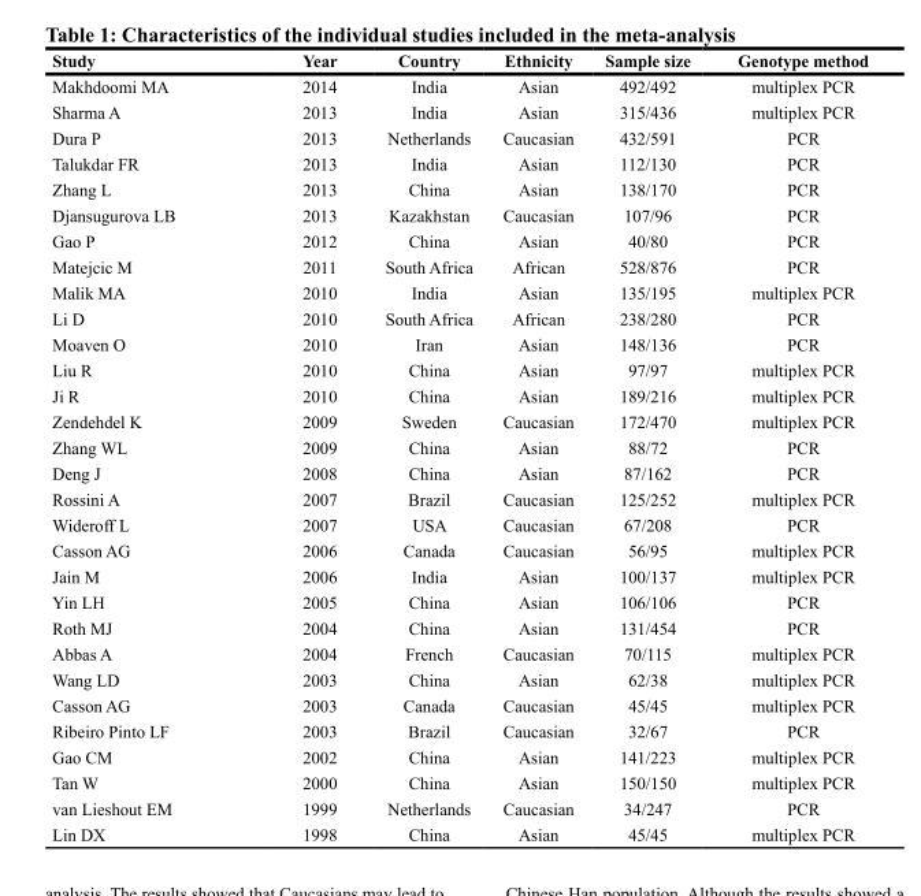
<table><thead><tr><td>Study</td><td>Year</td><td>Country</td><td>Ethnicity</td><td>Sample size</td><td>Genotype method</td></tr></thead><tbody><tr><td>Makhdoomi MA</td><td>2014</td><td>India</td><td>Asian</td><td>492/492</td><td>multiplex PCR</td></tr><tr><td>Sharma A</td><td>2013</td><td>India</td><td>Asian</td><td>315/436</td><td>multiplex PCR</td></tr><tr><td>Dura P</td><td>2013</td><td>Netherlands</td><td>Caucasian</td><td>432/591</td><td>PCR</td></tr><tr><td>Talukdar FR</td><td>2013</td><td>India</td><td>Asian</td><td>112/130</td><td>PCR</td></tr><tr><td>Zhang L</td><td>2013</td><td>China</td><td>Asian</td><td>138/170</td><td>PCR</td></tr><tr><td>Djansugurova LB</td><td>2013</td><td>Kazakhstan</td><td>Caucasian</td><td>107/96</td><td>PCR</td></tr><tr><td>Gao P</td><td>2012</td><td>China</td><td>Asian</td><td>40/80</td><td>PCR</td></tr><tr><td>Matejcic M</td><td>2011</td><td>South Africa</td><td>African</td><td>528/876</td><td>PCR</td></tr><tr><td>Malik MA</td><td>2010</td><td>India</td><td>Asian</td><td>135/195</td><td>multiplex PCR</td></tr><tr><td>Li D</td><td>2010</td><td>South Africa</td><td>African</td><td>238/280</td><td>PCR</td></tr><tr><td>Moaven O</td><td>2010</td><td>Iran</td><td>Asian</td><td>148/136</td><td>PCR</td></tr><tr><td>Liu R</td><td>2010</td><td>China</td><td>Asian</td><td>97/97</td><td>multiplex PCR</td></tr><tr><td>Ji R</td><td>2010</td><td>China</td><td>Asian</td><td>189/216</td><td>multiplex PCR</td></tr><tr><td>Zendehdel K</td><td>2009</td><td>Sweden</td><td>Caucasian</td><td>172/470</td><td>multiplex PCR</td></tr><tr><td>Zhang WL</td><td>2009</td><td>China</td><td>Asian</td><td>88/72</td><td>PCR</td></tr><tr><td>Deng J</td><td>2008</td><td>China</td><td>Asian</td><td>87/162</td><td>PCR</td></tr><tr><td>Rossini A</td><td>2007</td><td>Brazil</td><td>Caucasian</td><td>125/252</td><td>multiplex PCR</td></tr><tr><td>Wideroff L</td><td>2007</td><td>USA</td><td>Caucasian</td><td>67/208</td><td>PCR</td></tr><tr><td>Casson AG</td><td>2006</td><td>Canada</td><td>Caucasian</td><td>56/95</td><td>multiplex PCR</td></tr><tr><td>Jain M</td><td>2006</td><td>India</td><td>Asian</td><td>100/137</td><td>multiplex PCR</td></tr><tr><td>Yin LH</td><td>2005</td><td>China</td><td>Asian</td><td>106/106</td><td>PCR</td></tr><tr><td>Roth MJ</td><td>2004</td><td>China</td><td>Asian</td><td>131/454</td><td>PCR</td></tr><tr><td>Abbas A</td><td>2004</td><td>French</td><td>Caucasian</td><td>70/115</td><td>multiplex PCR</td></tr><tr><td>Wang LD</td><td>2003</td><td>China</td><td>Asian</td><td>62/38</td><td>multiplex PCR</td></tr><tr><td>Casson AG</td><td>2003</td><td>Canada</td><td>Caucasian</td><td>45/45</td><td>multiplex PCR</td></tr><tr><td>Ribeiro Pinto LF</td><td>2003</td><td>Brazil</td><td>Caucasian</td><td>32/67</td><td>PCR</td></tr><tr><td>Gao CM</td><td>2002</td><td>China</td><td>Asian</td><td>141/223</td><td>multiplex PCR</td></tr><tr><td>Tan W</td><td>2000</td><td>China</td><td>Asian</td><td>150/150</td><td>multiplex PCR</td></tr><tr><td>van Lieshout EM</td><td>1999</td><td>Netherlands</td><td>Caucasian</td><td>34/247</td><td>PCR</td></tr><tr><td>Lin DX</td><td>1998</td><td>China</td><td>Asian</td><td>45/45</td><td>multiplex PCR</td></tr></tbody></table>